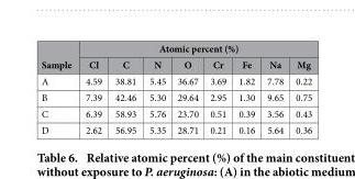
<table><thead><tr><td rowspan="2">Sample</td><td colspan="8">Atomic percent (%)</td></tr><tr><td>Cl</td><td>C</td><td>N</td><td>O</td><td>Cr</td><td>Fe</td><td>Na</td><td>Mg</td></tr></thead><tbody><tr><td>A</td><td>4.59</td><td>38.81</td><td>5.45</td><td>36.67</td><td>3.69</td><td>1.82</td><td>7.78</td><td>0.22</td></tr><tr><td>B</td><td>7.39</td><td>42.46</td><td>5.30</td><td>29.64</td><td>2.95</td><td>1.30</td><td>9.65</td><td>0.75</td></tr><tr><td>C</td><td>6.39</td><td>58.93</td><td>5.76</td><td>23.70</td><td>0.51</td><td>0.39</td><td>3.56</td><td>0.43</td></tr><tr><td>D</td><td>2.62</td><td>56.95</td><td>5.35</td><td>28.71</td><td>0.21</td><td>0.16</td><td>5.64</td><td>0.36</td></tr></tbody></table>